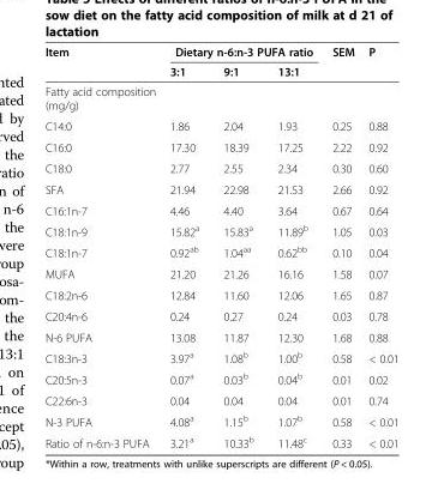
<table><thead><tr><td rowspan="2">Item</td><td colspan="3">Dietary n-6:n-3 PUFA ratio</td><td rowspan="2">SEM</td><td rowspan="2">P</td></tr><tr><td>3:1</td><td>9:1</td><td>13:1</td></tr></thead><tbody><tr><td colspan="6">Fatty acid composition (mg/g)</td></tr><tr><td>C14:0</td><td>1.86</td><td>2.04</td><td>1.93</td><td>0.25</td><td>0.88</td></tr><tr><td>C16:0</td><td>17.30</td><td>18.39</td><td>17.25</td><td>2.22</td><td>0.92</td></tr><tr><td>C18:0</td><td>2.77</td><td>2.55</td><td>2.34</td><td>0.30</td><td>0.60</td></tr><tr><td>SFA</td><td>21.94</td><td>22.98</td><td>21.53</td><td>2.66</td><td>0.92</td></tr><tr><td>C16:1n-7</td><td>4.46</td><td>4.40</td><td>3.64</td><td>0.67</td><td>0.64</td></tr><tr><td>C18:1n-9</td><td>15.82<sup>a</sup></td><td>15.83<sup>a</sup></td><td>11.89<sup>b</sup></td><td>1.05</td><td>0.03</td></tr><tr><td>C18:1n-7</td><td>0.92<sup>ab</sup></td><td>1.04<sup>aa</sup></td><td>0.62<sup>bb</sup></td><td>0.10</td><td>0.04</td></tr><tr><td>MUFA</td><td>21.20</td><td>21.26</td><td>16.16</td><td>1.58</td><td>0.07</td></tr><tr><td>C18:2n-6</td><td>12.84</td><td>11.60</td><td>12.06</td><td>1.65</td><td>0.87</td></tr><tr><td>C20:4n-6</td><td>0.24</td><td>0.27</td><td>0.24</td><td>0.03</td><td>0.78</td></tr><tr><td>N-6 PUFA</td><td>13.08</td><td>11.87</td><td>12.30</td><td>1.68</td><td>0.88</td></tr><tr><td>C18:3n-3</td><td>3.97<sup>a</sup></td><td>1.08<sup>b</sup></td><td>1.00<sup>b</sup></td><td>0.58</td><td>&lt; 0.01</td></tr><tr><td>C20:5n-3</td><td>0.07<sup>a</sup></td><td>0.03<sup>b</sup></td><td>0.04<sup>b</sup></td><td>0.01</td><td>0.02</td></tr><tr><td>C22:6n-3</td><td>0.04</td><td>0.04</td><td>0.04</td><td>0.01</td><td>0.74</td></tr><tr><td>N-3 PUFA</td><td>4.08<sup>a</sup></td><td>1.15<sup>b</sup></td><td>1.07<sup>b</sup></td><td>0.58</td><td>&lt; 0.01</td></tr><tr><td>Ratio of n-6:n-3 PUFA</td><td>3.21<sup>a</sup></td><td>10.33<sup>b</sup></td><td>11.48<sup>c</sup></td><td>0.33</td><td>&lt; 0.01</td></tr></tbody></table>